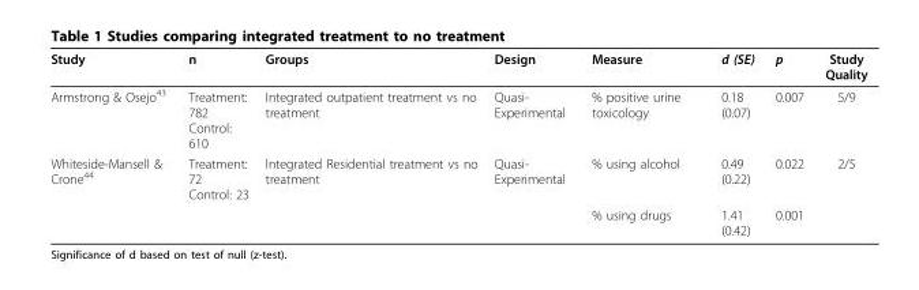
<table><thead><tr><td>Study</td><td>n</td><td>Groups</td><td>Design</td><td>Measure</td><td>d (SE)</td><td>p</td><td>Study Quality</td></tr></thead><tbody><tr><td>Armstrong &amp; Osejo<sup>43</sup></td><td>Treatment: 782 Control: 610</td><td>Integrated outpatient treatment vs no treatment</td><td>Quasi- Experimental</td><td>% positive urine toxicology</td><td>0.18 (0.07)</td><td>0.007</td><td>5/9</td></tr><tr><td rowspan="2">Whiteside-Mansell &amp; Crone<sup>44</sup></td><td>Treatment: 72 Control: 23</td><td>Integrated Residential treatment vs no treatment</td><td>Quasi- Experimental</td><td>% using alcohol</td><td>0.49 (0.22)</td><td>0.022</td><td>2/5</td></tr><tr><td></td><td></td><td></td><td>% using drugs</td><td>1.41 (0.42)</td><td>0.001</td><td></td></tr></tbody></table>